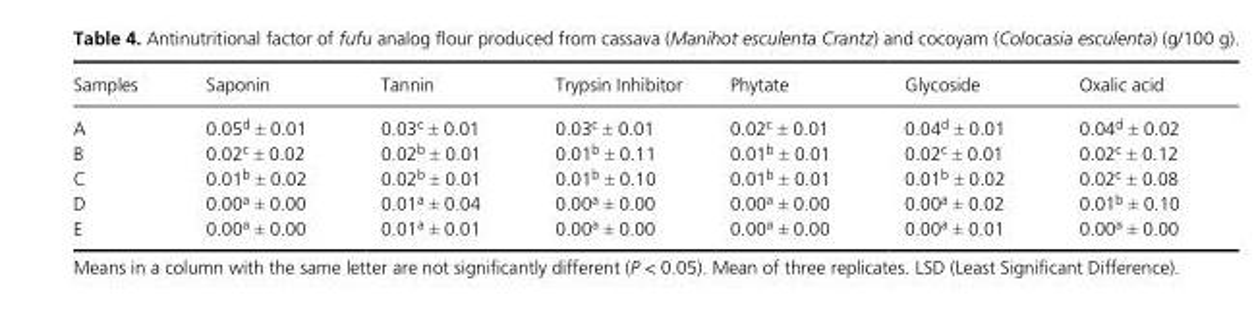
<table><thead><tr><td>Samples</td><td>Saponin</td><td>Tannin</td><td>Trypsin Inhibitor</td><td>Phytate</td><td>Glycoside</td><td>Oxalic acid</td></tr></thead><tbody><tr><td>A</td><td>0.05<sup>d</sup> ± 0.01</td><td>0.03<sup>c</sup> ± 0.01</td><td>0.03<sup>c</sup> ± 0.01</td><td>0.02<sup>c</sup> ± 0.01</td><td>0.04<sup>d</sup> ± 0.01</td><td>0.04<sup>d</sup> ± 0.02</td></tr><tr><td>B</td><td>0.02<sup>c</sup> ± 0.02</td><td>0.02<sup>b</sup> ± 0.01</td><td>0.01<sup>b</sup> ± 0.11</td><td>0.01<sup>b</sup> ± 0.01</td><td>0.02<sup>c</sup> ± 0.01</td><td>0.02<sup>c</sup> ± 0.12</td></tr><tr><td>C</td><td>0.01<sup>b</sup> ± 0.02</td><td>0.02<sup>b</sup> ± 0.01</td><td>0.01<sup>b</sup> ± 0.10</td><td>0.01<sup>b</sup> ± 0.01</td><td>0.01<sup>b</sup> ± 0.02</td><td>0.02<sup>c</sup> ± 0.08</td></tr><tr><td>D</td><td>0.00<sup>a</sup> ± 0.00</td><td>0.01<sup>a</sup> ± 0.04</td><td>0.00<sup>a</sup> ± 0.00</td><td>0.00<sup>a</sup> ± 0.00</td><td>0.00<sup>a</sup> ± 0.02</td><td>0.01<sup>b</sup> ± 0.10</td></tr><tr><td>E</td><td>0.00<sup>a</sup> ± 0.00</td><td>0.01<sup>a</sup> ± 0.01</td><td>0.00<sup>a</sup> ± 0.00</td><td>0.00<sup>a</sup> ± 0.00</td><td>0.00<sup>a</sup> ± 0.01</td><td>0.00<sup>a</sup> ± 0.00</td></tr></tbody></table>